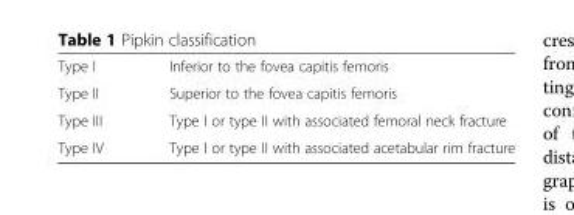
<table><tbody><tr><td>Type I</td><td>Inferior to the fovea capitis femoris</td></tr><tr><td>Type II</td><td>Superior to the fovea capitis femoris</td></tr><tr><td>Type III</td><td>Type I or type II with associated femoral neck fracture</td></tr><tr><td>Type IV</td><td>Type I or type II with associated acetabular rim fracture</td></tr></tbody></table>